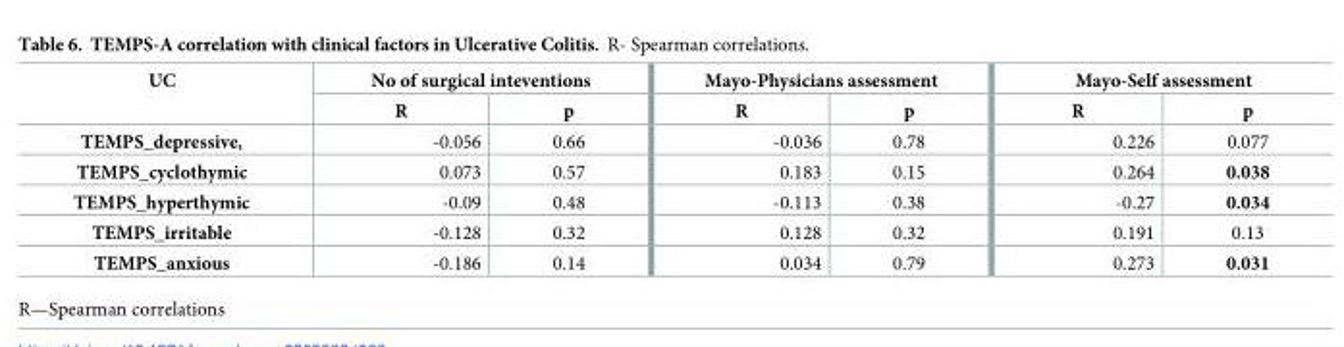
<table><thead><tr><td rowspan="2">UC</td><td colspan="2">No of surgical inteventions</td><td colspan="2">Mayo-Physicians assessment</td><td colspan="2">Mayo-Self assessment</td></tr><tr><td>R</td><td>p</td><td>R</td><td>p</td><td>R</td><td>p</td></tr></thead><tbody><tr><td>TEMPS_depressive,</td><td>-0.056</td><td>0.66</td><td>-0.036</td><td>0.78</td><td>0.226</td><td>0.077</td></tr><tr><td>TEMPS_cyclothymic</td><td>0.073</td><td>0.57</td><td>0.183</td><td>0.15</td><td>0.264</td><td>0.038</td></tr><tr><td>TEMPS_hyperthymic</td><td>-0.09</td><td>0.48</td><td>-0.113</td><td>0.38</td><td>-0.27</td><td>0.034</td></tr><tr><td>TEMPS_irritable</td><td>-0.128</td><td>0.32</td><td>0.128</td><td>0.32</td><td>0.191</td><td>0.13</td></tr><tr><td>TEMPS_anxious</td><td>-0.186</td><td>0.14</td><td>0.034</td><td>0.79</td><td>0.273</td><td>0.031</td></tr></tbody></table>